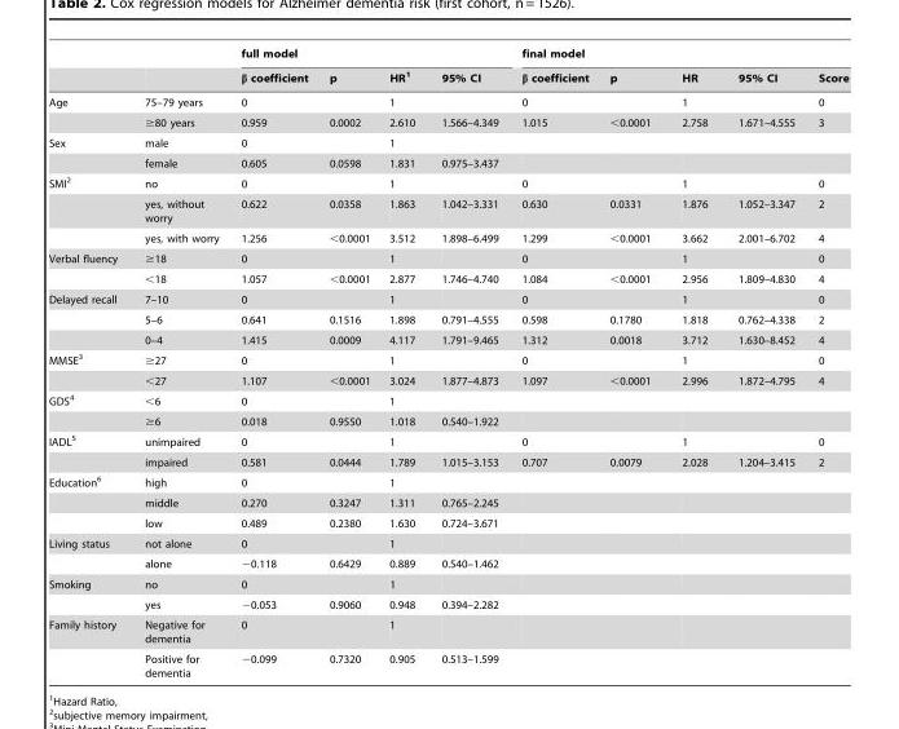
<table><thead><tr><td rowspan="2"></td><td rowspan="2"></td><td colspan="4">full model</td><td colspan="5">final model</td></tr><tr><td>β coefficient</td><td>p</td><td>HR<sup>1</sup></td><td>95% CI</td><td>β coefficient</td><td>p</td><td>HR</td><td>95% CI</td><td>Score</td></tr></thead><tbody><tr><td rowspan="2">Age</td><td>75–79 years</td><td>0</td><td></td><td>1</td><td></td><td>0</td><td></td><td>1</td><td></td><td>0</td></tr><tr><td>≥80 years</td><td>0.959</td><td>0.0002</td><td>2.610</td><td>1.566–4.349</td><td>1.015</td><td>&lt;0.0001</td><td>2.758</td><td>1.671–4.555</td><td>3</td></tr><tr><td rowspan="2">Sex</td><td>male</td><td>0</td><td></td><td>1</td><td></td><td></td><td></td><td></td><td></td><td></td></tr><tr><td>female</td><td>0.605</td><td>0.0598</td><td>1.831</td><td>0.975–3.437</td><td></td><td></td><td></td><td></td><td></td></tr><tr><td rowspan="3">SMI<sup>2</sup></td><td>no</td><td>0</td><td></td><td>1</td><td></td><td>0</td><td></td><td>1</td><td></td><td>0</td></tr><tr><td>yes, without worry</td><td>0.622</td><td>0.0358</td><td>1.863</td><td>1.042–3.331</td><td>0.630</td><td>0.0331</td><td>1.876</td><td>1.052–3.347</td><td>2</td></tr><tr><td>yes, with worry</td><td>1.256</td><td>&lt;0.0001</td><td>3.512</td><td>1.898–6.499</td><td>1.299</td><td>&lt;0.0001</td><td>3.662</td><td>2.001–6.702</td><td>4</td></tr><tr><td rowspan="2">Verbal fluency</td><td>≥18</td><td>0</td><td></td><td>1</td><td></td><td>0</td><td></td><td>1</td><td></td><td>0</td></tr><tr><td>&lt;18</td><td>1.057</td><td>&lt;0.0001</td><td>2.877</td><td>1.746–4.740</td><td>1.084</td><td>&lt;0.0001</td><td>2.956</td><td>1.809–4.830</td><td>4</td></tr><tr><td rowspan="3">Delayed recall</td><td>7–10</td><td>0</td><td></td><td>1</td><td></td><td>0</td><td></td><td>1</td><td></td><td>0</td></tr><tr><td>5–6</td><td>0.641</td><td>0.1516</td><td>1.898</td><td>0.791–4.555</td><td>0.598</td><td>0.1780</td><td>1.818</td><td>0.762–4.338</td><td>2</td></tr><tr><td>0–4</td><td>1.415</td><td>0.0009</td><td>4.117</td><td>1.791–9.465</td><td>1.312</td><td>0.0018</td><td>3.712</td><td>1.630–8.452</td><td>4</td></tr><tr><td rowspan="2">MMSE<sup>3</sup></td><td>≥27</td><td>0</td><td></td><td>1</td><td></td><td>0</td><td></td><td>1</td><td></td><td>0</td></tr><tr><td>&lt;27</td><td>1.107</td><td>&lt;0.0001</td><td>3.024</td><td>1.877–4.873</td><td>1.097</td><td>&lt;0.0001</td><td>2.996</td><td>1.872–4.795</td><td>4</td></tr><tr><td rowspan="2">GDS<sup>4</sup></td><td>&lt;6</td><td>0</td><td></td><td>1</td><td></td><td></td><td></td><td></td><td></td><td></td></tr><tr><td>≥6</td><td>0.018</td><td>0.9550</td><td>1.018</td><td>0.540–1.922</td><td></td><td></td><td></td><td></td><td></td></tr><tr><td rowspan="2">IADL<sup>5</sup></td><td>unimpaired</td><td>0</td><td></td><td>1</td><td></td><td>0</td><td></td><td>1</td><td></td><td>0</td></tr><tr><td>impaired</td><td>0.581</td><td>0.0444</td><td>1.789</td><td>1.015–3.153</td><td>0.707</td><td>0.0079</td><td>2.028</td><td>1.204–3.415</td><td>2</td></tr><tr><td rowspan="3">Education<sup>6</sup></td><td>high</td><td>0</td><td></td><td>1</td><td></td><td></td><td></td><td></td><td></td><td></td></tr><tr><td>middle</td><td>0.270</td><td>0.3247</td><td>1.311</td><td>0.765–2.245</td><td></td><td></td><td></td><td></td><td></td></tr><tr><td>low</td><td>0.489</td><td>0.2380</td><td>1.630</td><td>0.724–3.671</td><td></td><td></td><td></td><td></td><td></td></tr><tr><td rowspan="2">Living status</td><td>not alone</td><td>0</td><td></td><td>1</td><td></td><td></td><td></td><td></td><td></td><td></td></tr><tr><td>alone</td><td>−0.118</td><td>0.6429</td><td>0.889</td><td>0.540–1.462</td><td></td><td></td><td></td><td></td><td></td></tr><tr><td rowspan="2">Smoking</td><td>no</td><td>0</td><td></td><td>1</td><td></td><td></td><td></td><td></td><td></td><td></td></tr><tr><td>yes</td><td>−0.053</td><td>0.9060</td><td>0.948</td><td>0.394–2.282</td><td></td><td></td><td></td><td></td><td></td></tr><tr><td rowspan="2">Family history</td><td>Negative for dementia</td><td>0</td><td></td><td>1</td><td></td><td></td><td></td><td></td><td></td><td></td></tr><tr><td>Positive for dementia</td><td>−0.099</td><td>0.7320</td><td>0.905</td><td>0.513–1.599</td><td></td><td></td><td></td><td></td><td></td></tr></tbody></table>